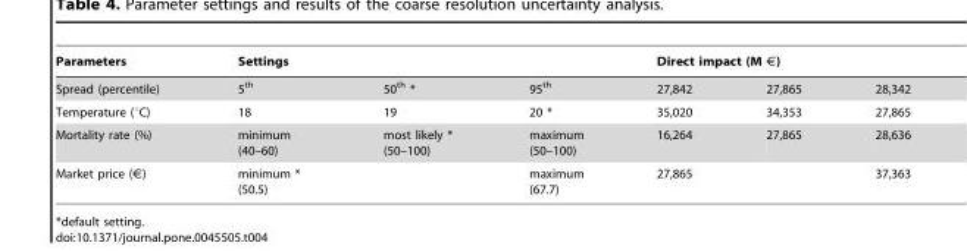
<table><thead><tr><td rowspan="2">Parameters Spread (percentile)</td><td colspan="3">Settings</td><td colspan="3">Direct impact (M €)</td></tr><tr><td>5<sup>th</sup></td><td>50<sup>th</sup> *</td><td>95<sup>th</sup></td><td>27,842</td><td>27,865</td><td>28,342</td></tr></thead><tbody><tr><td>Temperature (°C)</td><td>18</td><td>19</td><td>20 *</td><td>35,020</td><td>34,353</td><td>27,865</td></tr><tr><td>Mortality rate (%)</td><td>minimum (40–60)</td><td>most likely * (50–100)</td><td>maximum (50–100)</td><td>16,264</td><td>27,865</td><td>28,636</td></tr><tr><td>Market price (€)</td><td>minimum * (50.5)</td><td></td><td>maximum (67.7)</td><td>27,865</td><td></td><td>37,363</td></tr></tbody></table>